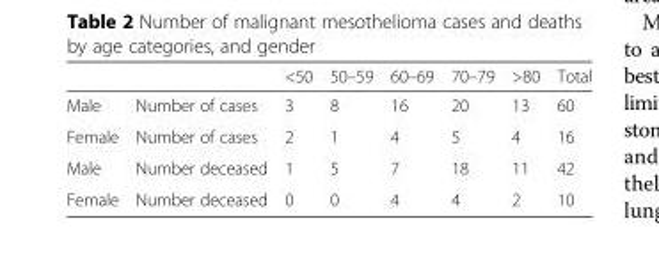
<table><thead><tr><td></td><td></td><td>&lt;50</td><td>50–59</td><td>60–69</td><td>70–79</td><td>&gt;80</td><td>Total</td></tr></thead><tbody><tr><td>Male</td><td>Number of cases</td><td>3</td><td>8</td><td>16</td><td>20</td><td>13</td><td>60</td></tr><tr><td>Female</td><td>Number of cases</td><td>2</td><td>1</td><td>4</td><td>5</td><td>4</td><td>16</td></tr><tr><td>Male</td><td>Number deceased</td><td>1</td><td>5</td><td>7</td><td>18</td><td>11</td><td>42</td></tr><tr><td>Female</td><td>Number deceased</td><td>0</td><td>0</td><td>4</td><td>4</td><td>2</td><td>10</td></tr></tbody></table>